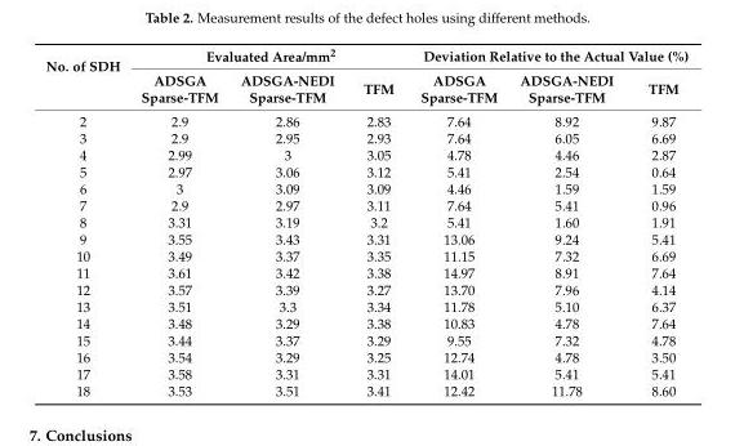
<table><thead><tr><td rowspan="2">No. of SDH</td><td colspan="3">Evaluated Area/mm<sup>2</sup></td><td colspan="3">Deviation Relative to the Actual Value (%)</td></tr><tr><td>ADSGA Sparse-TFM</td><td>ADSGA-NEDI Sparse-TFM</td><td>TFM</td><td>ADSGA Sparse-TFM</td><td>ADSGA-NEDI Sparse-TFM</td><td>TFM</td></tr></thead><tbody><tr><td>2</td><td>2.9</td><td>2.86</td><td>2.83</td><td>7.64</td><td>8.92</td><td>9.87</td></tr><tr><td>3</td><td>2.9</td><td>2.95</td><td>2.93</td><td>7.64</td><td>6.05</td><td>6.69</td></tr><tr><td>4</td><td>2.99</td><td>3</td><td>3.05</td><td>4.78</td><td>4.46</td><td>2.87</td></tr><tr><td>5</td><td>2.97</td><td>3.06</td><td>3.12</td><td>5.41</td><td>2.54</td><td>0.64</td></tr><tr><td>6</td><td>3</td><td>3.09</td><td>3.09</td><td>4.46</td><td>1.59</td><td>1.59</td></tr><tr><td>7</td><td>2.9</td><td>2.97</td><td>3.11</td><td>7.64</td><td>5.41</td><td>0.96</td></tr><tr><td>8</td><td>3.31</td><td>3.19</td><td>3.2</td><td>5.41</td><td>1.60</td><td>1.91</td></tr><tr><td>9</td><td>3.55</td><td>3.43</td><td>3.31</td><td>13.06</td><td>9.24</td><td>5.41</td></tr><tr><td>10</td><td>3.49</td><td>3.37</td><td>3.35</td><td>11.15</td><td>7.32</td><td>6.69</td></tr><tr><td>11</td><td>3.61</td><td>3.42</td><td>3.38</td><td>14.97</td><td>8.91</td><td>7.64</td></tr><tr><td>12</td><td>3.57</td><td>3.39</td><td>3.27</td><td>13.70</td><td>7.96</td><td>4.14</td></tr><tr><td>13</td><td>3.51</td><td>3.3</td><td>3.34</td><td>11.78</td><td>5.10</td><td>6.37</td></tr><tr><td>14</td><td>3.48</td><td>3.29</td><td>3.38</td><td>10.83</td><td>4.78</td><td>7.64</td></tr><tr><td>15</td><td>3.44</td><td>3.37</td><td>3.29</td><td>9.55</td><td>7.32</td><td>4.78</td></tr><tr><td>16</td><td>3.54</td><td>3.29</td><td>3.25</td><td>12.74</td><td>4.78</td><td>3.50</td></tr><tr><td>17</td><td>3.58</td><td>3.31</td><td>3.31</td><td>14.01</td><td>5.41</td><td>5.41</td></tr><tr><td>18</td><td>3.53</td><td>3.51</td><td>3.41</td><td>12.42</td><td>11.78</td><td>8.60</td></tr></tbody></table>